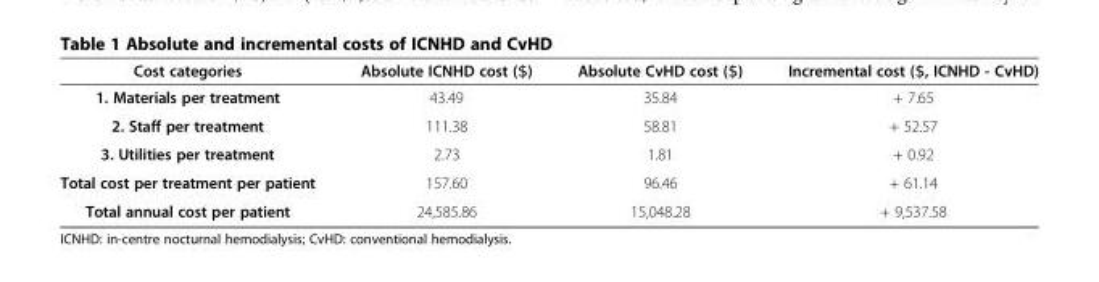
<table><thead><tr><td>Cost categories</td><td>Absolute ICNHD cost ($)</td><td>Absolute CvHD cost ($)</td><td>Incremental cost ($, ICNHD - CvHD)</td></tr></thead><tbody><tr><td>1. Materials per treatment</td><td>43.49</td><td>35.84</td><td>+ 7.65</td></tr><tr><td>2. Staff per treatment</td><td>111.38</td><td>58.81</td><td>+ 52.57</td></tr><tr><td>3. Utilities per treatment</td><td>2.73</td><td>1.81</td><td>+ 0.92</td></tr><tr><td>Total cost per treatment per patient</td><td>157.60</td><td>96.46</td><td>+ 61.14</td></tr><tr><td>Total annual cost per patient</td><td>24,585.86</td><td>15,048.28</td><td>+ 9,537.58</td></tr></tbody></table>